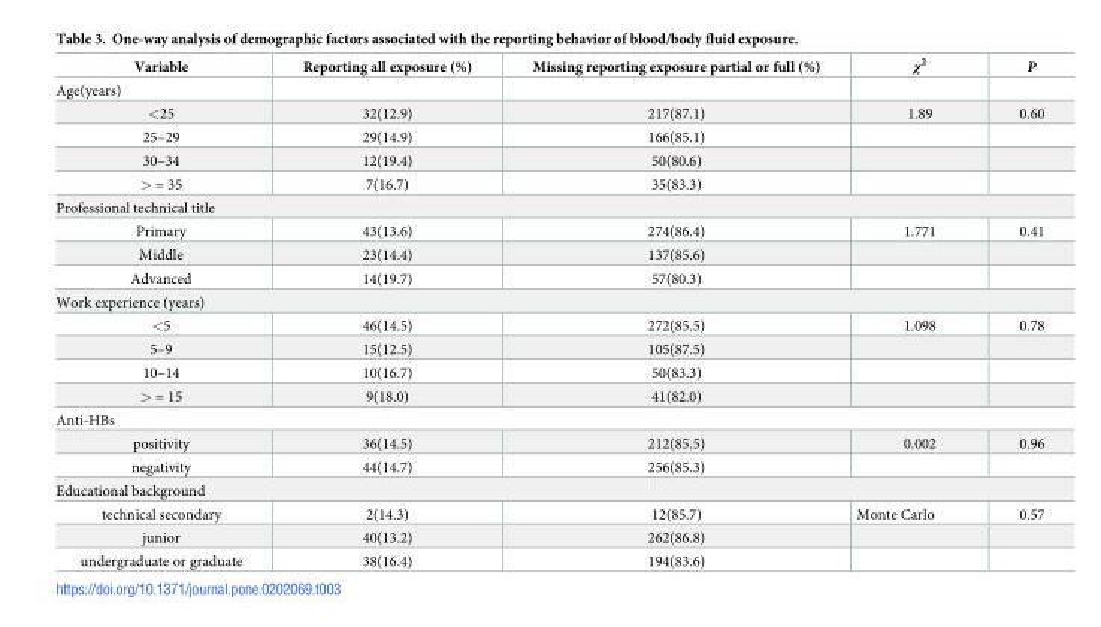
<table><thead><tr><td>Variable</td><td>Reporting all exposure (%)</td><td>Missing reporting exposure partial or full (%)</td><td>χ<sup>2</sup></td><td>P</td></tr></thead><tbody><tr><td colspan="5">Age(years)</td></tr><tr><td>&lt;25</td><td>32(12.9)</td><td>217(87.1)</td><td>1.89</td><td>0.60</td></tr><tr><td>25–29</td><td>29(14.9)</td><td>166(85.1)</td><td></td><td></td></tr><tr><td>30–34</td><td>12(19.4)</td><td>50(80.6)</td><td></td><td></td></tr><tr><td>&gt; = 35</td><td>7(16.7)</td><td>35(83.3)</td><td></td><td></td></tr><tr><td colspan="5">Professional technical title</td></tr><tr><td>Primary</td><td>43(13.6)</td><td>274(86.4)</td><td>1.771</td><td>0.41</td></tr><tr><td>Middle</td><td>23(14.4)</td><td>137(85.6)</td><td></td><td></td></tr><tr><td>Advanced</td><td>14(19.7)</td><td>57(80.3)</td><td></td><td></td></tr><tr><td colspan="5">Work experience (years)</td></tr><tr><td>&lt;5</td><td>46(14.5)</td><td>272(85.5)</td><td>1.098</td><td>0.78</td></tr><tr><td>5–9</td><td>15(12.5)</td><td>105(87.5)</td><td></td><td></td></tr><tr><td>10–14</td><td>10(16.7)</td><td>50(83.3)</td><td></td><td></td></tr><tr><td>&gt; = 15</td><td>9(18.0)</td><td>41(82.0)</td><td></td><td></td></tr><tr><td colspan="5">Anti-HBs</td></tr><tr><td>positivity</td><td>36(14.5)</td><td>212(85.5)</td><td>0.002</td><td>0.96</td></tr><tr><td>negativity</td><td>44(14.7)</td><td>256(85.3)</td><td></td><td></td></tr><tr><td colspan="5">Educational background</td></tr><tr><td>technical secondary</td><td>2(14.3)</td><td>12(85.7)</td><td>Monte Carlo</td><td>0.57</td></tr><tr><td>junior</td><td>40(13.2)</td><td>262(86.8)</td><td></td><td></td></tr><tr><td>undergraduate or graduate</td><td>38(16.4)</td><td>194(83.6)</td><td></td><td></td></tr></tbody></table>